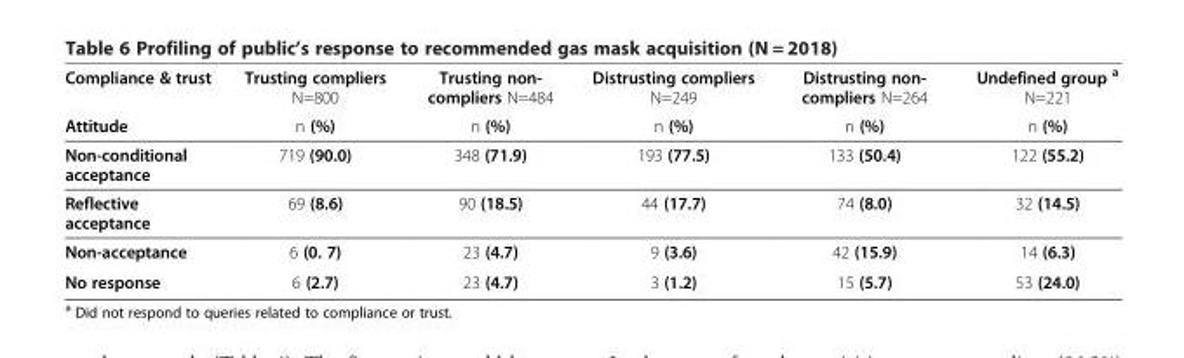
<table><thead><tr><td rowspan="2">Compliance &amp; trust Attitude</td><td rowspan="2">Trusting compliers N=800 n (%)</td><td rowspan="2">Trusting non- compliers N=484 n (%)</td><td rowspan="2">Distrusting compliers N=249 n (%)</td><td rowspan="2">Distrusting non- compliers N=264 n (%)</td><td rowspan="2">Undefined group <sup>a</sup> N=221 n (%)</td></tr><tr></tr></thead><tbody><tr><td>Non-conditional acceptance</td><td>719 (90.0)</td><td>348 (71.9)</td><td>193 (77.5)</td><td>133 (50.4)</td><td>122 (55.2)</td></tr><tr><td>Reflective acceptance</td><td>69 (8.6)</td><td>90 (18.5)</td><td>44 (17.7)</td><td>74 (8.0)</td><td>32 (14.5)</td></tr><tr><td>Non-acceptance</td><td>6 (0. 7)</td><td>23 (4.7)</td><td>9 (3.6)</td><td>42 (15.9)</td><td>14 (6.3)</td></tr><tr><td>No response</td><td>6 (2.7)</td><td>23 (4.7)</td><td>3 (1.2)</td><td>15 (5.7)</td><td>53 (24.0)</td></tr></tbody></table>